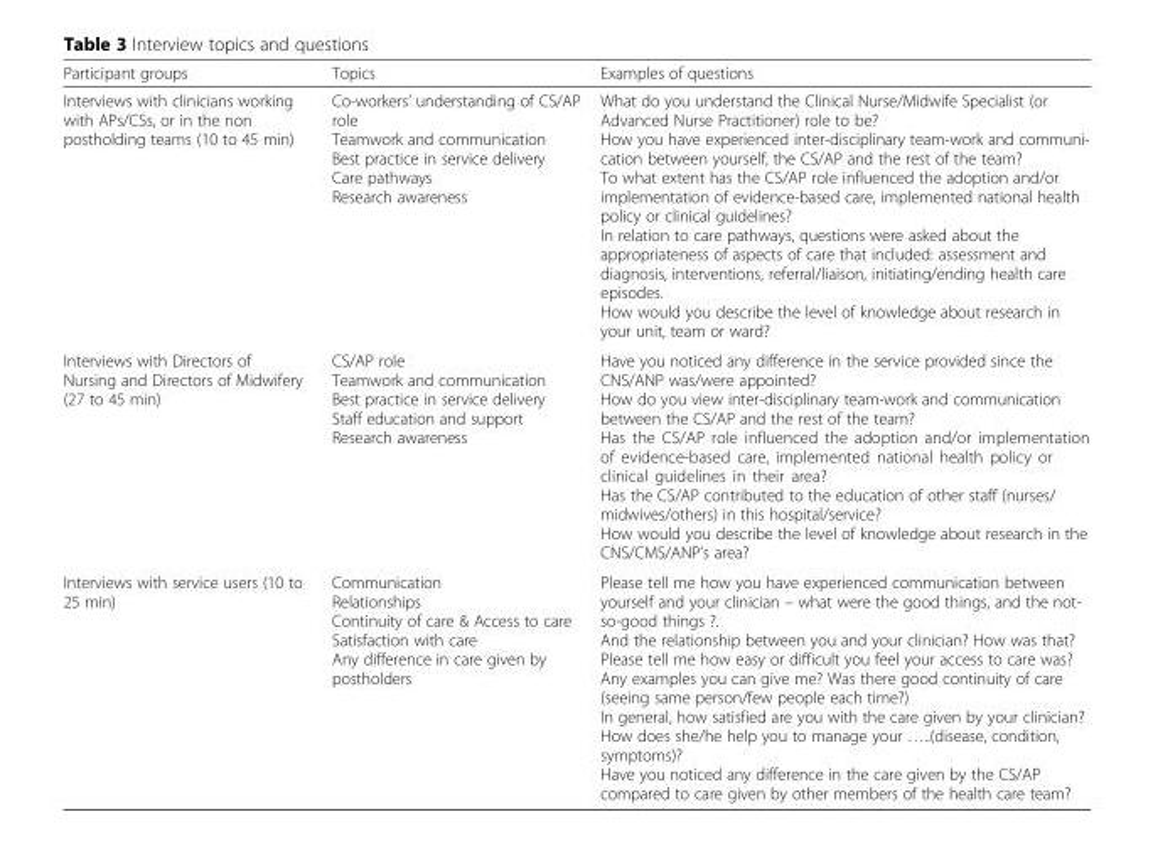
<table><thead><tr><td>Participant groups</td><td>Topics</td><td>Examples of questions</td></tr></thead><tbody><tr><td>Interviews with clinicians working with APs/CSs, or in the non postholding teams (10 to 45 min)</td><td>Co-workers’ understanding of CS/AP role Teamwork and communication Best practice in service delivery Care pathways Research awareness</td><td>What do you understand the Clinical Nurse/Midwife Specialist (or Advanced Nurse Practitioner) role to be? How you have experienced inter-disciplinary team-work and communi- cation between yourself, the CS/AP and the rest of the team? To what extent has the CS/AP role influenced the adoption and/or implementation of evidence-based care, implemented national health policy or clinical guidelines? In relation to care pathways, questions were asked about the appropriateness of aspects of care that included: assessment and diagnosis, interventions, referral/liaison, initiating/ending health care episodes. How would you describe the level of knowledge about research in your unit, team or ward?</td></tr><tr><td>Interviews with Directors of Nursing and Directors of Midwifery (27 to 45 min)</td><td>CS/AP role Teamwork and communication Best practice in service delivery Staff education and support Research awareness</td><td>Have you noticed any difference in the service provided since the CNS/ANP was/were appointed? How do you view inter-disciplinary team-work and communication between the CS/AP and the rest of the team? Has the CS/AP role influenced the adoption and/or implementation of evidence-based care, implemented national health policy or clinical guidelines in their area? Has the CS/AP contributed to the education of other staff (nurses/ midwives/others) in this hospital/service? How would you describe the level of knowledge about research in the CNS/CMS/ANP’s area?</td></tr><tr><td>Interviews with service users (10 to 25 min)</td><td>Communication Relationships Continuity of care &amp; Access to care Satisfaction with care Any difference in care given by postholders</td><td>Please tell me how you have experienced communication between yourself and your clinician – what were the good things, and the not- so-good things ?. And the relationship between you and your clinician? How was that? Please tell me how easy or difficult you feel your access to care was? Any examples you can give me? Was there good continuity of care (seeing same person/few people each time?) In general, how satisfied are you with the care given by your clinician? How does she/he help you to manage your …..(disease, condition, symptoms)? Have you noticed any difference in the care given by the CS/AP compared to care given by other members of the health care team?</td></tr></tbody></table>